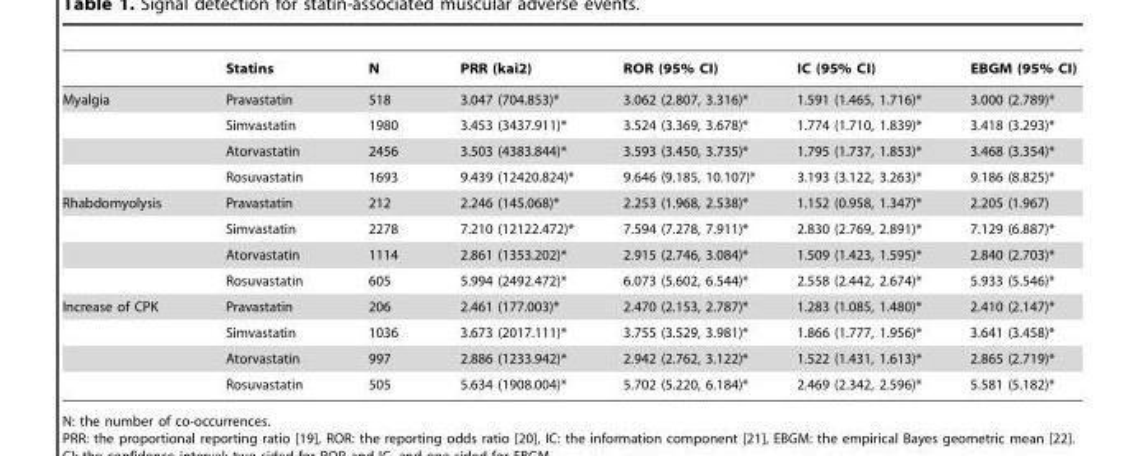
<table><thead><tr><td></td><td>Statins</td><td>N</td><td>PRR (kai2)</td><td>ROR (95% CI)</td><td>IC (95% CI)</td><td>EBGM (95% CI)</td></tr></thead><tbody><tr><td rowspan="4">Myalgia</td><td>Pravastatin</td><td>518</td><td>3.047 (704.853)*</td><td>3.062 (2.807, 3.316)*</td><td>1.591 (1.465, 1.716)*</td><td>3.000 (2.789)*</td></tr><tr><td>Simvastatin</td><td>1980</td><td>3.453 (3437.911)*</td><td>3.524 (3.369, 3.678)*</td><td>1.774 (1.710, 1.839)*</td><td>3.418 (3.293)*</td></tr><tr><td>Atorvastatin</td><td>2456</td><td>3.503 (4383.844)*</td><td>3.593 (3.450, 3.735)*</td><td>1.795 (1.737, 1.853)*</td><td>3.468 (3.354)*</td></tr><tr><td>Rosuvastatin</td><td>1693</td><td>9.439 (12420.824)*</td><td>9.646 (9.185, 10.107)*</td><td>3.193 (3.122, 3.263)*</td><td>9.186 (8.825)*</td></tr><tr><td rowspan="4">Rhabdomyolysis</td><td>Pravastatin</td><td>212</td><td>2.246 (145.068)*</td><td>2.253 (1.968, 2.538)*</td><td>1.152 (0.958, 1.347)*</td><td>2.205 (1.967)</td></tr><tr><td>Simvastatin</td><td>2278</td><td>7.210 (12122.472)*</td><td>7.594 (7.278, 7.911)*</td><td>2.830 (2.769, 2.891)*</td><td>7.129 (6.887)*</td></tr><tr><td>Atorvastatin</td><td>1114</td><td>2.861 (1353.202)*</td><td>2.915 (2.746, 3.084)*</td><td>1.509 (1.423, 1.595)*</td><td>2.840 (2.703)*</td></tr><tr><td>Rosuvastatin</td><td>605</td><td>5.994 (2492.472)*</td><td>6.073 (5.602, 6.544)*</td><td>2.558 (2.442, 2.674)*</td><td>5.933 (5.546)*</td></tr><tr><td rowspan="4">Increase of CPK</td><td>Pravastatin</td><td>206</td><td>2.461 (177.003)*</td><td>2.470 (2.153, 2.787)*</td><td>1.283 (1.085, 1.480)*</td><td>2.410 (2.147)*</td></tr><tr><td>Simvastatin</td><td>1036</td><td>3.673 (2017.111)*</td><td>3.755 (3.529, 3.981)*</td><td>1.866 (1.777, 1.956)*</td><td>3.641 (3.458)*</td></tr><tr><td>Atorvastatin</td><td>997</td><td>2.886 (1233.942)*</td><td>2.942 (2.762, 3.122)*</td><td>1.522 (1.431, 1.613)*</td><td>2.865 (2.719)*</td></tr><tr><td>Rosuvastatin</td><td>505</td><td>5.634 (1908.004)*</td><td>5.702 (5.220, 6.184)*</td><td>2.469 (2.342, 2.596)*</td><td>5.581 (5.182)*</td></tr></tbody></table>